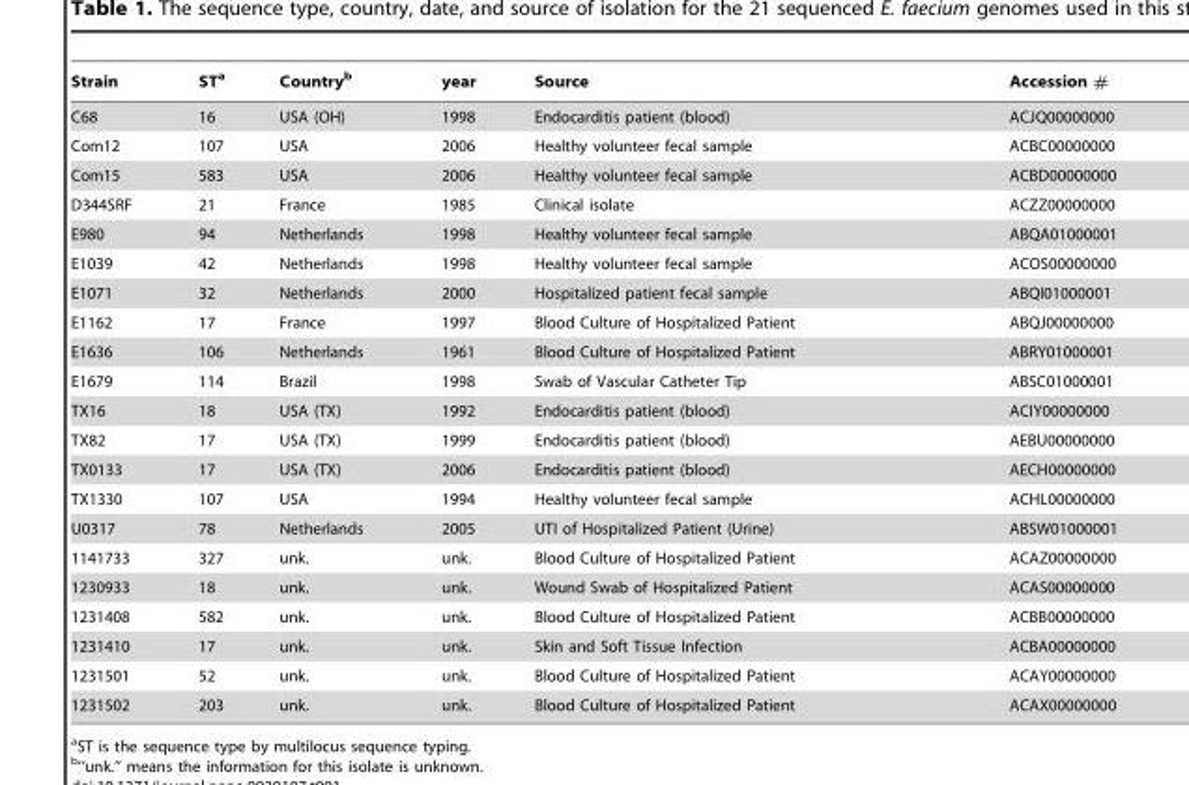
<table><thead><tr><td>Strain</td><td>ST<sup>a</sup></td><td>Country<sup>b</sup></td><td>year</td><td>Source</td><td>Accession #</td></tr></thead><tbody><tr><td>C68</td><td>16</td><td>USA (OH)</td><td>1998</td><td>Endocarditis patient (blood)</td><td>ACJQ00000000</td></tr><tr><td>Com12</td><td>107</td><td>USA</td><td>2006</td><td>Healthy volunteer fecal sample</td><td>ACBC00000000</td></tr><tr><td>Com15</td><td>583</td><td>USA</td><td>2006</td><td>Healthy volunteer fecal sample</td><td>ACBD00000000</td></tr><tr><td>D344SRF</td><td>21</td><td>France</td><td>1985</td><td>Clinical isolate</td><td>ACZZ00000000</td></tr><tr><td>E980</td><td>94</td><td>Netherlands</td><td>1998</td><td>Healthy volunteer fecal sample</td><td>ABQA01000001</td></tr><tr><td>E1039</td><td>42</td><td>Netherlands</td><td>1998</td><td>Healthy volunteer fecal sample</td><td>ACOS00000000</td></tr><tr><td>E1071</td><td>32</td><td>Netherlands</td><td>2000</td><td>Hospitalized patient fecal sample</td><td>ABQI01000001</td></tr><tr><td>E1162</td><td>17</td><td>France</td><td>1997</td><td>Blood Culture of Hospitalized Patient</td><td>ABQJ00000000</td></tr><tr><td>E1636</td><td>106</td><td>Netherlands</td><td>1961</td><td>Blood Culture of Hospitalized Patient</td><td>ABRY01000001</td></tr><tr><td>E1679</td><td>114</td><td>Brazil</td><td>1998</td><td>Swab of Vascular Catheter Tip</td><td>ABSC01000001</td></tr><tr><td>TX16</td><td>18</td><td>USA (TX)</td><td>1992</td><td>Endocarditis patient (blood)</td><td>ACIY00000000</td></tr><tr><td>TX82</td><td>17</td><td>USA (TX)</td><td>1999</td><td>Endocarditis patient (blood)</td><td>AEBU00000000</td></tr><tr><td>TX0133</td><td>17</td><td>USA (TX)</td><td>2006</td><td>Endocarditis patient (blood)</td><td>AECH00000000</td></tr><tr><td>TX1330</td><td>107</td><td>USA</td><td>1994</td><td>Healthy volunteer fecal sample</td><td>ACHL00000000</td></tr><tr><td>U0317</td><td>78</td><td>Netherlands</td><td>2005</td><td>UTI of Hospitalized Patient (Urine)</td><td>ABSW01000001</td></tr><tr><td>1141733</td><td>327</td><td>unk.</td><td>unk.</td><td>Blood Culture of Hospitalized Patient</td><td>ACAZ00000000</td></tr><tr><td>1230933</td><td>18</td><td>unk.</td><td>unk.</td><td>Wound Swab of Hospitalized Patient</td><td>ACAS00000000</td></tr><tr><td>1231408</td><td>582</td><td>unk.</td><td>unk.</td><td>Blood Culture of Hospitalized Patient</td><td>ACBB00000000</td></tr><tr><td>1231410</td><td>17</td><td>unk.</td><td>unk.</td><td>Skin and Soft Tissue Infection</td><td>ACBA00000000</td></tr><tr><td>1231501</td><td>52</td><td>unk.</td><td>unk.</td><td>Blood Culture of Hospitalized Patient</td><td>ACAY00000000</td></tr><tr><td>1231502</td><td>203</td><td>unk.</td><td>unk.</td><td>Blood Culture of Hospitalized Patient</td><td>ACAX00000000</td></tr></tbody></table>